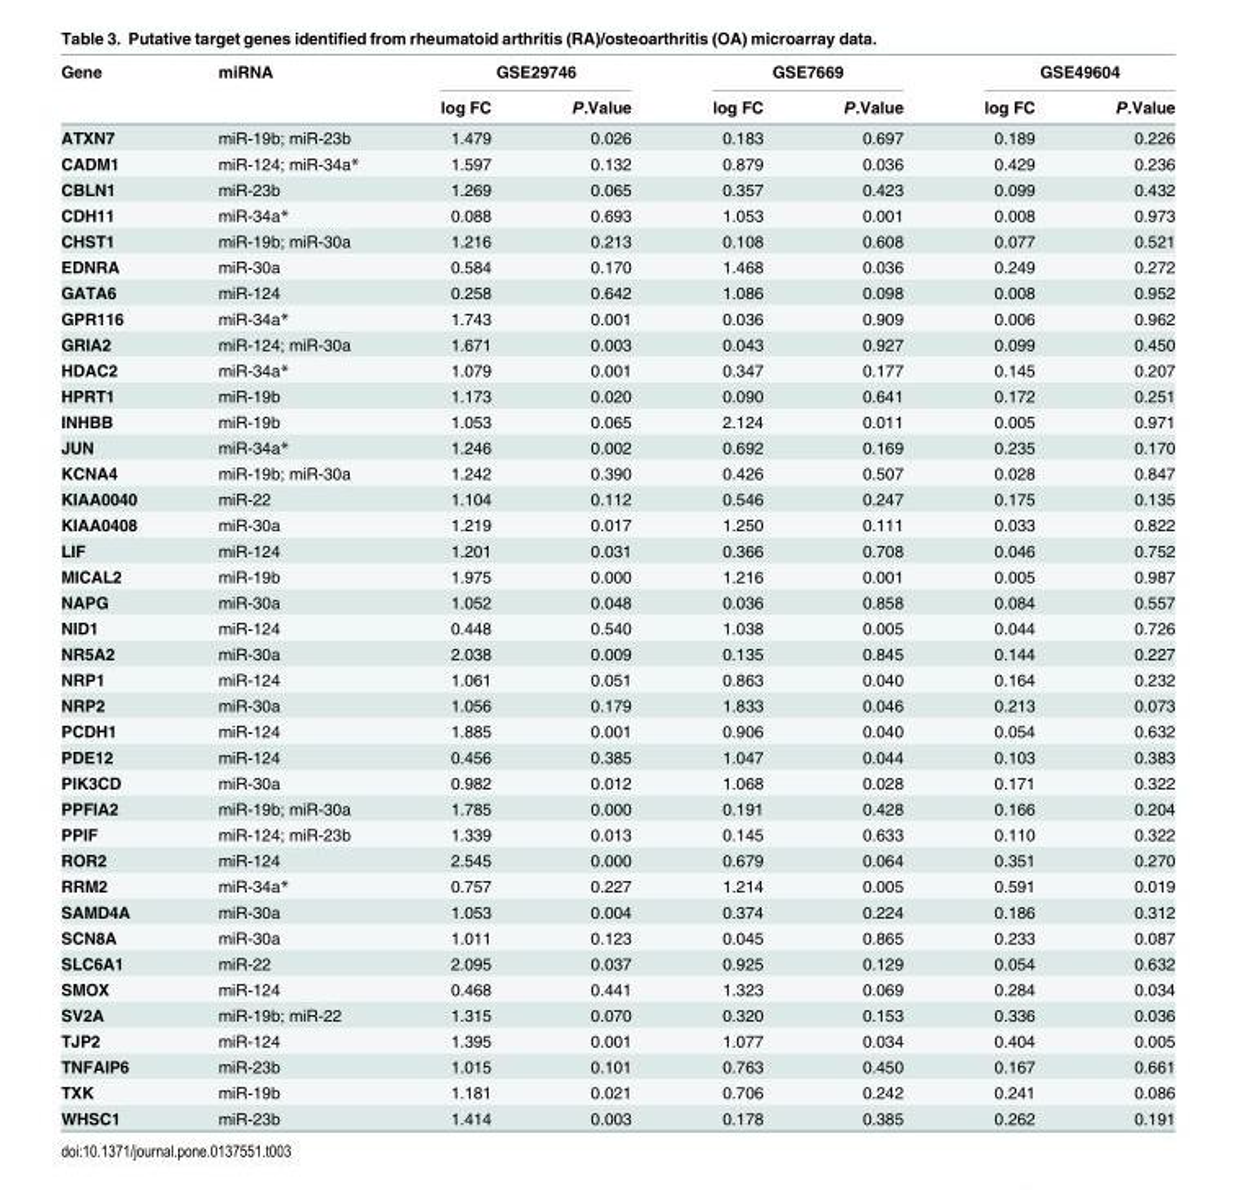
<table><thead><tr><td rowspan="2">Gene</td><td rowspan="2">miRNA</td><td colspan="2">GSE29746</td><td colspan="2">GSE7669</td><td colspan="2">GSE49604</td></tr><tr><td>log FC</td><td>P.Value</td><td>log FC</td><td>P.Value</td><td>log FC</td><td>P.Value</td></tr></thead><tbody><tr><td>ATXN7</td><td>miR-19b; miR-23b</td><td>1.479</td><td>0.026</td><td>0.183</td><td>0.697</td><td>0.189</td><td>0.226</td></tr><tr><td>CADM1</td><td>miR-124; miR-34a*</td><td>1.597</td><td>0.132</td><td>0.879</td><td>0.036</td><td>0.429</td><td>0.236</td></tr><tr><td>CBLN1</td><td>miR-23b</td><td>1.269</td><td>0.065</td><td>0.357</td><td>0.423</td><td>0.099</td><td>0.432</td></tr><tr><td>CDH11</td><td>miR-34a*</td><td>0.088</td><td>0.693</td><td>1.053</td><td>0.001</td><td>0.008</td><td>0.973</td></tr><tr><td>CHST1</td><td>miR-19b; miR-30a</td><td>1.216</td><td>0.213</td><td>0.108</td><td>0.608</td><td>0.077</td><td>0.521</td></tr><tr><td>EDNRA</td><td>miR-30a</td><td>0.584</td><td>0.170</td><td>1.468</td><td>0.036</td><td>0.249</td><td>0.272</td></tr><tr><td>GATA6</td><td>miR-124</td><td>0.258</td><td>0.642</td><td>1.086</td><td>0.098</td><td>0.008</td><td>0.952</td></tr><tr><td>GPR116</td><td>miR-34a*</td><td>1.743</td><td>0.001</td><td>0.036</td><td>0.909</td><td>0.006</td><td>0.962</td></tr><tr><td>GRIA2</td><td>miR-124; miR-30a</td><td>1.671</td><td>0.003</td><td>0.043</td><td>0.927</td><td>0.099</td><td>0.450</td></tr><tr><td>HDAC2</td><td>miR-34a*</td><td>1.079</td><td>0.001</td><td>0.347</td><td>0.177</td><td>0.145</td><td>0.207</td></tr><tr><td>HPRT1</td><td>miR-19b</td><td>1.173</td><td>0.020</td><td>0.090</td><td>0.641</td><td>0.172</td><td>0.251</td></tr><tr><td>INHBB</td><td>miR-19b</td><td>1.053</td><td>0.065</td><td>2.124</td><td>0.011</td><td>0.005</td><td>0.971</td></tr><tr><td>JUN</td><td>miR-34a*</td><td>1.246</td><td>0.002</td><td>0.692</td><td>0.169</td><td>0.235</td><td>0.170</td></tr><tr><td>KCNA4</td><td>miR-19b; miR-30a</td><td>1.242</td><td>0.390</td><td>0.426</td><td>0.507</td><td>0.028</td><td>0.847</td></tr><tr><td>KIAA0040</td><td>miR-22</td><td>1.104</td><td>0.112</td><td>0.546</td><td>0.247</td><td>0.175</td><td>0.135</td></tr><tr><td>KIAA0408</td><td>miR-30a</td><td>1.219</td><td>0.017</td><td>1.250</td><td>0.111</td><td>0.033</td><td>0.822</td></tr><tr><td>LIF</td><td>miR-124</td><td>1.201</td><td>0.031</td><td>0.366</td><td>0.708</td><td>0.046</td><td>0.752</td></tr><tr><td>MICAL2</td><td>miR-19b</td><td>1.975</td><td>0.000</td><td>1.216</td><td>0.001</td><td>0.005</td><td>0.987</td></tr><tr><td>NAPG</td><td>miR-30a</td><td>1.052</td><td>0.048</td><td>0.036</td><td>0.858</td><td>0.084</td><td>0.557</td></tr><tr><td>NID1</td><td>miR-124</td><td>0.448</td><td>0.540</td><td>1.038</td><td>0.005</td><td>0.044</td><td>0.726</td></tr><tr><td>NR5A2</td><td>miR-30a</td><td>2.038</td><td>0.009</td><td>0.135</td><td>0.845</td><td>0.144</td><td>0.227</td></tr><tr><td>NRP1</td><td>miR-124</td><td>1.061</td><td>0.051</td><td>0.863</td><td>0.040</td><td>0.164</td><td>0.232</td></tr><tr><td>NRP2</td><td>miR-30a</td><td>1.056</td><td>0.179</td><td>1.833</td><td>0.046</td><td>0.213</td><td>0.073</td></tr><tr><td>PCDH1</td><td>miR-124</td><td>1.885</td><td>0.001</td><td>0.906</td><td>0.040</td><td>0.054</td><td>0.632</td></tr><tr><td>PDE12</td><td>miR-124</td><td>0.456</td><td>0.385</td><td>1.047</td><td>0.044</td><td>0.103</td><td>0.383</td></tr><tr><td>PIK3CD</td><td>miR-30a</td><td>0.982</td><td>0.012</td><td>1.068</td><td>0.028</td><td>0.171</td><td>0.322</td></tr><tr><td>PPFIA2</td><td>miR-19b; miR-30a</td><td>1.785</td><td>0.000</td><td>0.191</td><td>0.428</td><td>0.166</td><td>0.204</td></tr><tr><td>PPIF</td><td>miR-124; miR-23b</td><td>1.339</td><td>0.013</td><td>0.145</td><td>0.633</td><td>0.110</td><td>0.322</td></tr><tr><td>ROR2</td><td>miR-124</td><td>2.545</td><td>0.000</td><td>0.679</td><td>0.064</td><td>0.351</td><td>0.270</td></tr><tr><td>RRM2</td><td>miR-34a*</td><td>0.757</td><td>0.227</td><td>1.214</td><td>0.005</td><td>0.591</td><td>0.019</td></tr><tr><td>SAMD4A</td><td>miR-30a</td><td>1.053</td><td>0.004</td><td>0.374</td><td>0.224</td><td>0.186</td><td>0.312</td></tr><tr><td>SCN8A</td><td>miR-30a</td><td>1.011</td><td>0.123</td><td>0.045</td><td>0.865</td><td>0.233</td><td>0.087</td></tr><tr><td>SLC6A1</td><td>miR-22</td><td>2.095</td><td>0.037</td><td>0.925</td><td>0.129</td><td>0.054</td><td>0.632</td></tr><tr><td>SMOX</td><td>miR-124</td><td>0.468</td><td>0.441</td><td>1.323</td><td>0.069</td><td>0.284</td><td>0.034</td></tr><tr><td>SV2A</td><td>miR-19b; miR-22</td><td>1.315</td><td>0.070</td><td>0.320</td><td>0.153</td><td>0.336</td><td>0.036</td></tr><tr><td>TJP2</td><td>miR-124</td><td>1.395</td><td>0.001</td><td>1.077</td><td>0.034</td><td>0.404</td><td>0.005</td></tr><tr><td>TNFAIP6</td><td>miR-23b</td><td>1.015</td><td>0.101</td><td>0.763</td><td>0.450</td><td>0.167</td><td>0.661</td></tr><tr><td>TXK</td><td>miR-19b</td><td>1.181</td><td>0.021</td><td>0.706</td><td>0.242</td><td>0.241</td><td>0.086</td></tr><tr><td>WHSC1</td><td>miR-23b</td><td>1.414</td><td>0.003</td><td>0.178</td><td>0.385</td><td>0.262</td><td>0.191</td></tr></tbody></table>